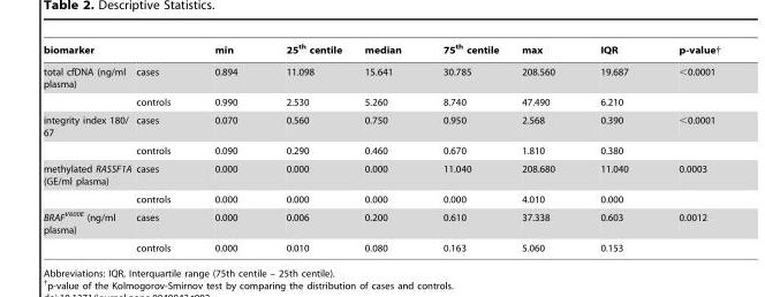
<table><thead><tr><td>biomarker</td><td></td><td>min</td><td>25<sup>th</sup> centile</td><td>median</td><td>75<sup>th</sup> centile</td><td>max</td><td>IQR</td><td>p-value†</td></tr></thead><tbody><tr><td rowspan="2">total cfDNA (ng/ml plasma)</td><td>cases</td><td>0.894</td><td>11.098</td><td>15.641</td><td>30.785</td><td>208.560</td><td>19.687</td><td>&lt;0.0001</td></tr><tr><td>controls</td><td>0.990</td><td>2.530</td><td>5.260</td><td>8.740</td><td>47.490</td><td>6.210</td><td></td></tr><tr><td rowspan="2">integrity index 180/ 67</td><td>cases</td><td>0.070</td><td>0.560</td><td>0.750</td><td>0.950</td><td>2.568</td><td>0.390</td><td>&lt;0.0001</td></tr><tr><td>controls</td><td>0.090</td><td>0.290</td><td>0.460</td><td>0.670</td><td>1.810</td><td>0.380</td><td></td></tr><tr><td rowspan="2">methylated RASSF1A (GE/ml plasma)</td><td>cases</td><td>0.000</td><td>0.000</td><td>0.000</td><td>11.040</td><td>208.680</td><td>11.040</td><td>0.0003</td></tr><tr><td>controls</td><td>0.000</td><td>0.000</td><td>0.000</td><td>0.000</td><td>4.010</td><td>0.000</td><td></td></tr><tr><td rowspan="2">BRAF<sup>V600E</sup> (ng/ml plasma)</td><td>cases</td><td>0.000</td><td>0.006</td><td>0.200</td><td>0.610</td><td>37.338</td><td>0.603</td><td>0.0012</td></tr><tr><td>controls</td><td>0.000</td><td>0.010</td><td>0.080</td><td>0.163</td><td>5.060</td><td>0.153</td><td></td></tr></tbody></table>